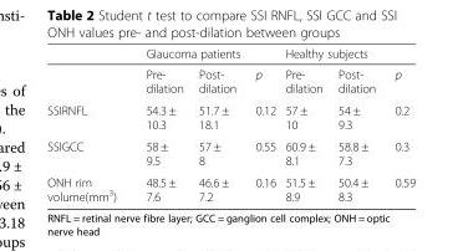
<table><thead><tr><td rowspan="2"></td><td colspan="2">Glaucoma patients</td><td rowspan="2">p</td><td colspan="2">Healthy subjects</td><td rowspan="2">p</td></tr><tr><td>Pre- dilation</td><td>Post- dilation</td><td>Pre- dilation</td><td>Post- dilation</td></tr></thead><tbody><tr><td>SSIRNFL</td><td>54.3 ± 10.3</td><td>51.7 ± 18.1</td><td>0.12</td><td>57 ± 10</td><td>54 ± 9.3</td><td>0.2</td></tr><tr><td>SSIGCC</td><td>58 ± 9.5</td><td>57 ± 8</td><td>0.55</td><td>60.9 ± 8.1</td><td>58.8 ± 7.3</td><td>0.3</td></tr><tr><td>ONH rim volume(mm<sup>3</sup>)</td><td>48.5 ± 7.6</td><td>46.6 ± 7.2</td><td>0.16</td><td>51.5 ± 8.9</td><td>50.4 ± 8.3</td><td>0.59</td></tr></tbody></table>